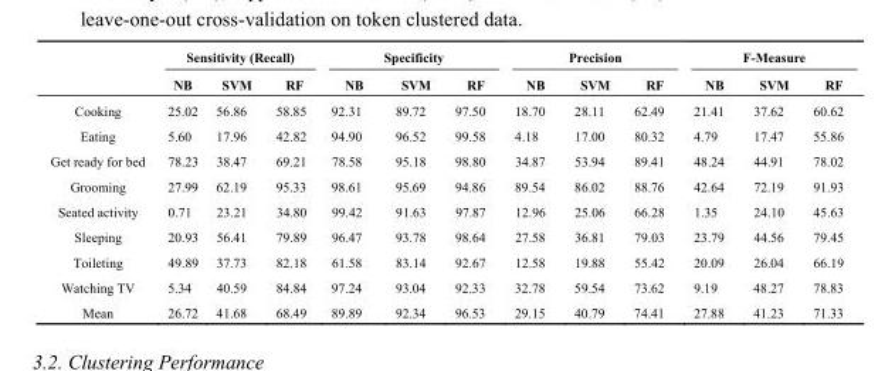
<table><thead><tr><td rowspan="2"></td><td colspan="3">Sensitivity (Recall)</td><td colspan="3">Specificity</td><td colspan="3">Precision</td><td colspan="3">F-Measure</td></tr><tr><td>NB</td><td>SVM</td><td>RF</td><td>NB</td><td>SVM</td><td>RF</td><td>NB</td><td>SVM</td><td>RF</td><td>NB</td><td>SVM</td><td>RF</td></tr></thead><tbody><tr><td>Cooking</td><td>25.02</td><td>56.86</td><td>58.85</td><td>92.31</td><td>89.72</td><td>97.50</td><td>18.70</td><td>28.11</td><td>62.49</td><td>21.41</td><td>37.62</td><td>60.62</td></tr><tr><td>Eating</td><td>5.60</td><td>17.96</td><td>42.82</td><td>94.90</td><td>96.52</td><td>99.58</td><td>4.18</td><td>17.00</td><td>80.32</td><td>4.79</td><td>17.47</td><td>55.86</td></tr><tr><td>Get ready for bed</td><td>78.23</td><td>38.47</td><td>69.21</td><td>78.58</td><td>95.18</td><td>98.80</td><td>34.87</td><td>53.94</td><td>89.41</td><td>48.24</td><td>44.91</td><td>78.02</td></tr><tr><td>Grooming</td><td>27.99</td><td>62.19</td><td>95.33</td><td>98.61</td><td>95.69</td><td>94.86</td><td>89.54</td><td>86.02</td><td>88.76</td><td>42.64</td><td>72.19</td><td>91.93</td></tr><tr><td>Seated activity</td><td>0.71</td><td>23.21</td><td>34.80</td><td>99.42</td><td>91.63</td><td>97.87</td><td>12.96</td><td>25.06</td><td>66.28</td><td>1.35</td><td>24.10</td><td>45.63</td></tr><tr><td>Sleeping</td><td>20.93</td><td>56.41</td><td>79.89</td><td>96.47</td><td>93.78</td><td>98.64</td><td>27.58</td><td>36.81</td><td>79.03</td><td>23.79</td><td>44.56</td><td>79.45</td></tr><tr><td>Toileting</td><td>49.89</td><td>37.73</td><td>82.18</td><td>61.58</td><td>83.14</td><td>92.67</td><td>12.58</td><td>19.88</td><td>55.42</td><td>20.09</td><td>26.04</td><td>66.19</td></tr><tr><td>Watching TV</td><td>5.34</td><td>40.59</td><td>84.84</td><td>97.24</td><td>93.04</td><td>92.33</td><td>32.78</td><td>59.54</td><td>73.62</td><td>9.19</td><td>48.27</td><td>78.83</td></tr><tr><td>Mean</td><td>26.72</td><td>41.68</td><td>68.49</td><td>89.89</td><td>92.34</td><td>96.53</td><td>29.15</td><td>40.79</td><td>74.41</td><td>27.88</td><td>41.23</td><td>71.33</td></tr></tbody></table>